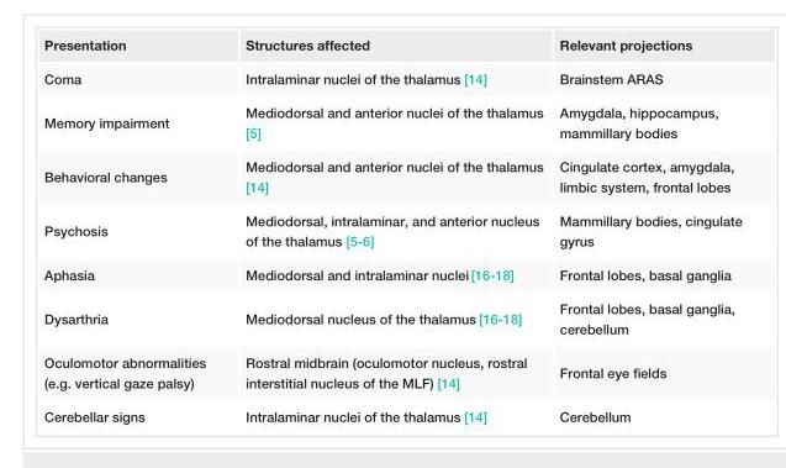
<table><tbody><tr><td>Presentation</td><td>Structures affected</td><td>Relevant projections</td></tr><tr><td>Coma</td><td>Intralaminar nuclei of the thalamus [14]</td><td>Brainstem ARAS</td></tr><tr><td>Memory impairment</td><td>Mediodorsal and anterior nuclei of the thalamus [5]</td><td>Amygdala, hippocampus, mammillary bodies</td></tr><tr><td>Behavioral changes</td><td>Mediodorsal and anterior nuclei of the thalamus [14]</td><td>Cingulate cortex, amygdala, limbic system, frontal lobes</td></tr><tr><td>Psychosis</td><td>Mediodorsal, intralaminar, and anterior nucleus of the thalamus [5-6]</td><td>Mammillary bodies, cingulate gyrus</td></tr><tr><td>Aphasia</td><td>Mediodorsal and intralaminar nuclei [16-18]</td><td>Frontal lobes, basal ganglia</td></tr><tr><td>Dysarthria</td><td>Mediodorsal nucleus of the thalamus [16-18]</td><td>Frontal lobes, basal ganglia, cerebellum</td></tr><tr><td>Oculomotor abnormalities (e.g. vertical gaze palsy)</td><td>Rostral midbrain (oculomotor nucleus, rostral interstitial nucleus of the MLF) [14]</td><td>Frontal eye fields</td></tr><tr><td>Cerebellar signs</td><td>Intralaminar nuclei of the thalamus [14]</td><td>Cerebellum</td></tr></tbody></table>